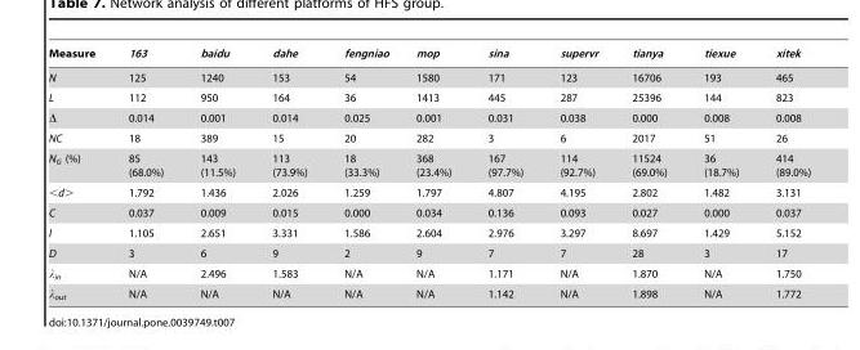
<table><thead><tr><td>Measure</td><td>163</td><td>baidu</td><td>dahe</td><td>fengniao</td><td>mop</td><td>sina</td><td>supervr</td><td>tianya</td><td>tiexue</td><td>xitek</td></tr></thead><tbody><tr><td>N</td><td>125</td><td>1240</td><td>153</td><td>54</td><td>1580</td><td>171</td><td>123</td><td>16706</td><td>193</td><td>465</td></tr><tr><td>L</td><td>112</td><td>950</td><td>164</td><td>36</td><td>1413</td><td>445</td><td>287</td><td>25396</td><td>144</td><td>823</td></tr><tr><td>Δ</td><td>0.014</td><td>0.001</td><td>0.014</td><td>0.025</td><td>0.001</td><td>0.031</td><td>0.038</td><td>0.000</td><td>0.008</td><td>0.008</td></tr><tr><td>NC</td><td>18</td><td>389</td><td>15</td><td>20</td><td>282</td><td>3</td><td>6</td><td>2017</td><td>51</td><td>26</td></tr><tr><td>N<sub>G</sub> (%)</td><td>85 (68.0%)</td><td>143 (11.5%)</td><td>113 (73.9%)</td><td>18 (33.3%)</td><td>368 (23.4%)</td><td>167 (97.7%)</td><td>114 (92.7%)</td><td>11524 (69.0%)</td><td>36 (18.7%)</td><td>414 (89.0%)</td></tr><tr><td>&lt;d&gt;</td><td>1.792</td><td>1.436</td><td>2.026</td><td>1.259</td><td>1.797</td><td>4.807</td><td>4.195</td><td>2.802</td><td>1.482</td><td>3.131</td></tr><tr><td>C</td><td>0.037</td><td>0.009</td><td>0.015</td><td>0.000</td><td>0.034</td><td>0.136</td><td>0.093</td><td>0.027</td><td>0.000</td><td>0.037</td></tr><tr><td>l</td><td>1.105</td><td>2.651</td><td>3.331</td><td>1.586</td><td>2.604</td><td>2.976</td><td>3.297</td><td>8.697</td><td>1.429</td><td>5.152</td></tr><tr><td>D</td><td>3</td><td>6</td><td>9</td><td>2</td><td>9</td><td>7</td><td>7</td><td>28</td><td>3</td><td>17</td></tr><tr><td>λ<sub>in</sub></td><td>N/A</td><td>2.496</td><td>1.583</td><td>N/A</td><td>N/A</td><td>1.171</td><td>N/A</td><td>1.870</td><td>N/A</td><td>1.750</td></tr><tr><td>λ<sub>out</sub></td><td>N/A</td><td>N/A</td><td>N/A</td><td>N/A</td><td>N/A</td><td>1.142</td><td>N/A</td><td>1.898</td><td>N/A</td><td>1.772</td></tr></tbody></table>